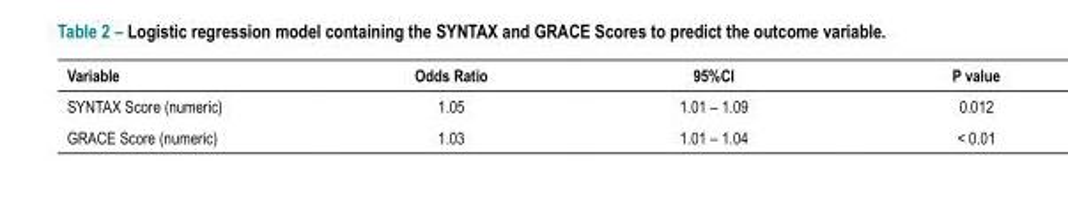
<table><thead><tr><td>Variable</td><td>Odds Ratio</td><td>95%CI</td><td>P value</td></tr></thead><tbody><tr><td>SYNTAX Score (numeric)</td><td>1.05</td><td>1.01 – 1.09</td><td>0.012</td></tr><tr><td>GRACE Score (numeric)</td><td>1.03</td><td>1.01 – 1.04</td><td>&lt; 0.01</td></tr></tbody></table>